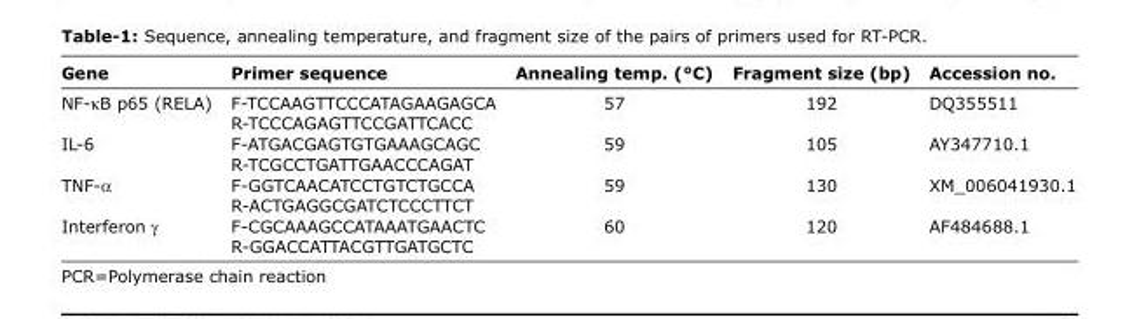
<table><thead><tr><td>Gene</td><td>Primer sequence</td><td>Annealing temp. (°C)</td><td>Fragment size (bp)</td><td>Accession no.</td></tr></thead><tbody><tr><td>NF-κB p65 (RELA)</td><td>F-TCCAAGTTCCCATAGAAGAGCA R-TCCCAGAGTTCCGATTCACC</td><td>57</td><td>192</td><td>DQ355511</td></tr><tr><td>IL-6</td><td>F-ATGACGAGTGTGAAAGCAGC R-TCGCCTGATTGAACCCAGAT</td><td>59</td><td>105</td><td>AY347710.1</td></tr><tr><td>TNF-α</td><td>F-GGTCAACATCCTGTCTGCCA R-ACTGAGGCGATCTCCCTTCT</td><td>59</td><td>130</td><td>XM_006041930.1</td></tr><tr><td>Interferon γ</td><td>F-CGCAAAGCCATAAATGAACTC R-GGACCATTACGTTGATGCTC</td><td>60</td><td>120</td><td>AF484688.1</td></tr></tbody></table>